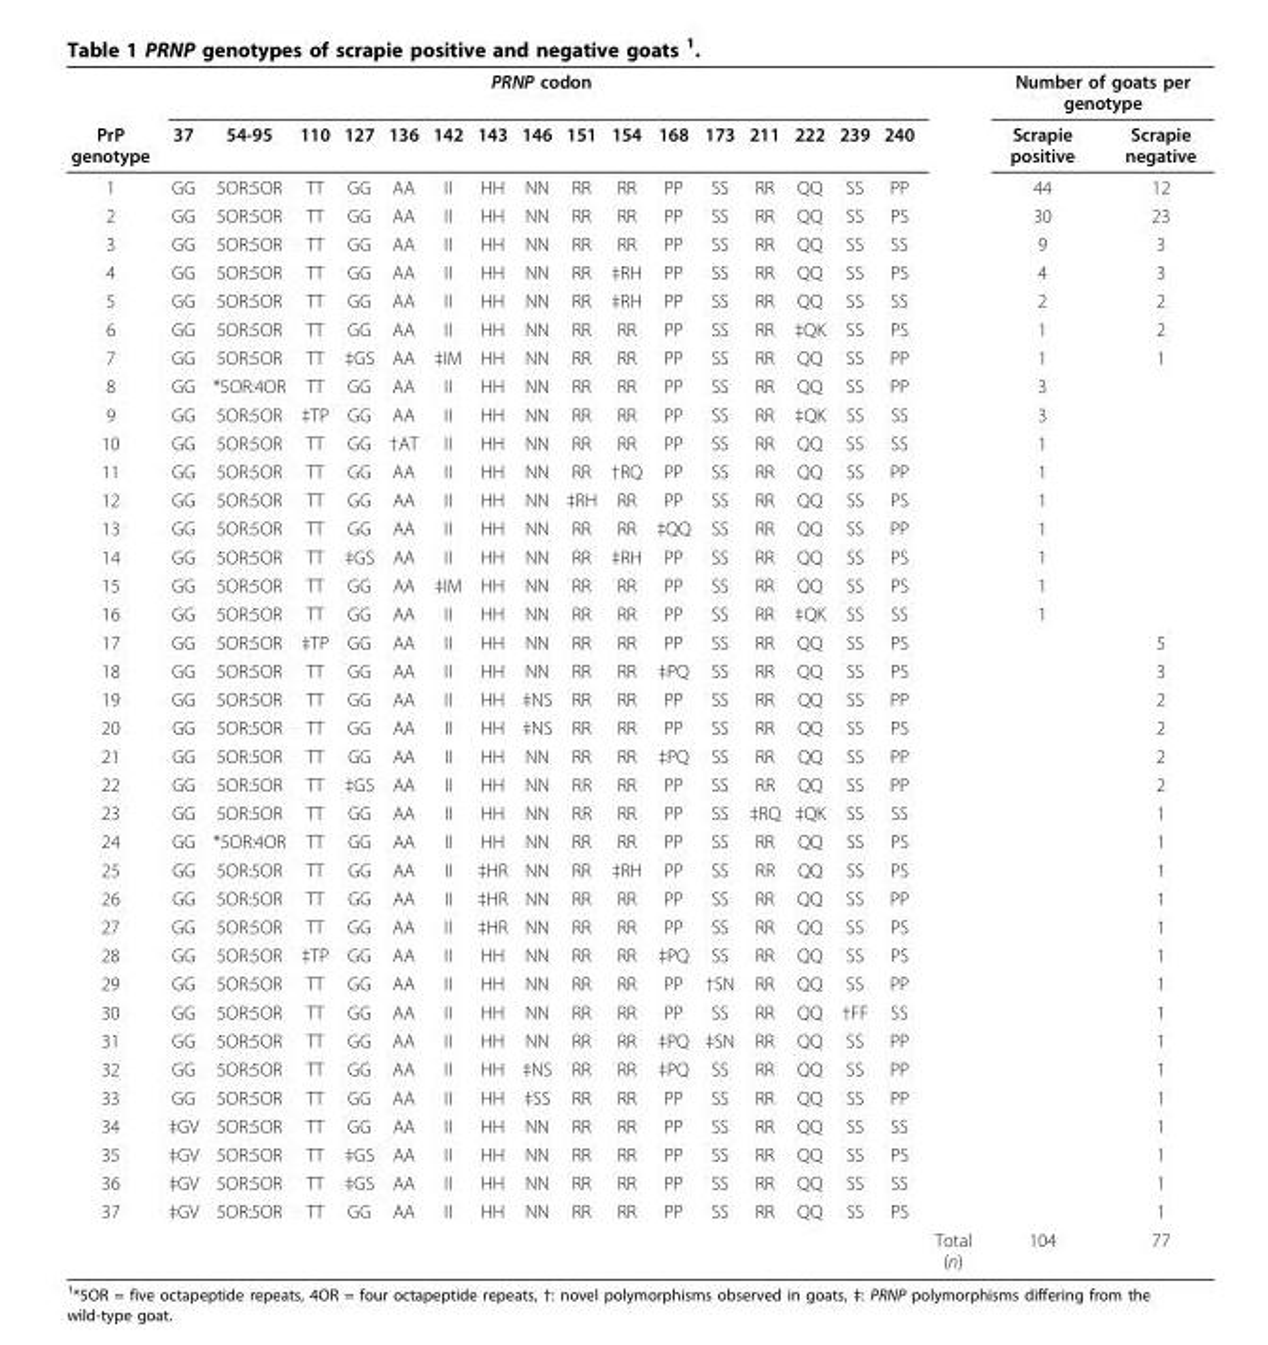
<table><thead><tr><td rowspan="2">PrP genotype</td><td colspan="16">PRNP codon</td><td rowspan="2"></td><td colspan="2">Number of goats per genotype</td></tr><tr><td>37</td><td>54-95</td><td>110</td><td>127</td><td>136</td><td>142</td><td>143</td><td>146</td><td>151</td><td>154</td><td>168</td><td>173</td><td>211</td><td>222</td><td>239</td><td>240</td><td>Scrapie positive</td><td>Scrapie negative</td></tr></thead><tbody><tr><td>1</td><td>GG</td><td>5OR:5OR</td><td>TT</td><td>GG</td><td>AA</td><td>II</td><td>HH</td><td>NN</td><td>RR</td><td>RR</td><td>PP</td><td>SS</td><td>RR</td><td>QQ</td><td>SS</td><td>PP</td><td></td><td>44</td><td>12</td></tr><tr><td>2</td><td>GG</td><td>5OR:5OR</td><td>TT</td><td>GG</td><td>AA</td><td>II</td><td>HH</td><td>NN</td><td>RR</td><td>RR</td><td>PP</td><td>SS</td><td>RR</td><td>QQ</td><td>SS</td><td>PS</td><td></td><td>30</td><td>23</td></tr><tr><td>3</td><td>GG</td><td>5OR:5OR</td><td>TT</td><td>GG</td><td>AA</td><td>II</td><td>HH</td><td>NN</td><td>RR</td><td>RR</td><td>PP</td><td>SS</td><td>RR</td><td>QQ</td><td>SS</td><td>SS</td><td></td><td>9</td><td>3</td></tr><tr><td>4</td><td>GG</td><td>5OR:5OR</td><td>TT</td><td>GG</td><td>AA</td><td>ΙΙ</td><td>HH</td><td>ΝΝ</td><td>RR</td><td>‡RH</td><td>PP</td><td>SS</td><td>RR</td><td>QQ</td><td>SS</td><td>PS</td><td></td><td>4</td><td>3</td></tr><tr><td>5</td><td>GG</td><td>5OR:5OR</td><td>TT</td><td>GG</td><td>AA</td><td>ΙΙ</td><td>HH</td><td>ΝΝ</td><td>RR</td><td>‡RH</td><td>PP</td><td>SS</td><td>RR</td><td>QQ</td><td>SS</td><td>SS</td><td></td><td>2</td><td>2</td></tr><tr><td>6</td><td>GG</td><td>5OR:5OR</td><td>TT</td><td>GG</td><td>AA</td><td>II</td><td>HH</td><td>NN</td><td>RR</td><td>RR</td><td>PP</td><td>SS</td><td>RR</td><td>‡QK</td><td>SS</td><td>PS</td><td></td><td>1</td><td>2</td></tr><tr><td>7</td><td>GG</td><td>5OR:5OR</td><td>TT</td><td>‡GS</td><td>AA</td><td>‡IM</td><td>HH</td><td>NN</td><td>RR</td><td>RR</td><td>PP</td><td>SS</td><td>RR</td><td>QQ</td><td>SS</td><td>PP</td><td></td><td>1</td><td>1</td></tr><tr><td>8</td><td>GG</td><td>*5OR:4OR</td><td>TT</td><td>GG</td><td>AA</td><td>II</td><td>HH</td><td>NN</td><td>RR</td><td>RR</td><td>PP</td><td>SS</td><td>RR</td><td>QQ</td><td>SS</td><td>PP</td><td></td><td>3</td><td></td></tr><tr><td>9</td><td>GG</td><td>5OR:5OR</td><td>‡TP</td><td>GG</td><td>AA</td><td>II</td><td>HH</td><td>NN</td><td>RR</td><td>RR</td><td>PP</td><td>SS</td><td>RR</td><td>‡QK</td><td>SS</td><td>SS</td><td></td><td>3</td><td></td></tr><tr><td>10</td><td>GG</td><td>5OR:5OR</td><td>TT</td><td>GG</td><td>†AT</td><td>II</td><td>HH</td><td>NN</td><td>RR</td><td>RR</td><td>PP</td><td>SS</td><td>RR</td><td>QQ</td><td>SS</td><td>SS</td><td></td><td>1</td><td></td></tr><tr><td>11</td><td>GG</td><td>5OR:5OR</td><td>TT</td><td>GG</td><td>AA</td><td>II</td><td>HH</td><td>NN</td><td>RR</td><td>†RQ</td><td>PP</td><td>SS</td><td>RR</td><td>QQ</td><td>SS</td><td>PP</td><td></td><td>1</td><td></td></tr><tr><td>12</td><td>GG</td><td>5OR:5OR</td><td>TT</td><td>GG</td><td>AA</td><td>ΙΙ</td><td>HH</td><td>ΝΝ</td><td>‡RH</td><td>RR</td><td>PP</td><td>SS</td><td>RR</td><td>QQ</td><td>SS</td><td>PS</td><td></td><td>1</td><td></td></tr><tr><td>13</td><td>GG</td><td>5OR:5OR</td><td>TT</td><td>GG</td><td>AA</td><td>II</td><td>HH</td><td>NN</td><td>RR</td><td>RR</td><td>‡QQ</td><td>SS</td><td>RR</td><td>QQ</td><td>SS</td><td>PP</td><td></td><td>1</td><td></td></tr><tr><td>14</td><td>GG</td><td>5OR:5OR</td><td>TT</td><td>‡GS</td><td>AA</td><td>II</td><td>HH</td><td>NN</td><td>RR</td><td>‡RH</td><td>PP</td><td>SS</td><td>RR</td><td>QQ</td><td>SS</td><td>PS</td><td></td><td>1</td><td></td></tr><tr><td>15</td><td>GG</td><td>5OR:5OR</td><td>TT</td><td>GG</td><td>AA</td><td>‡IM</td><td>HH</td><td>NN</td><td>RR</td><td>RR</td><td>PP</td><td>SS</td><td>RR</td><td>QQ</td><td>SS</td><td>PS</td><td></td><td>1</td><td></td></tr><tr><td>16</td><td>GG</td><td>5OR:5OR</td><td>TT</td><td>GG</td><td>AA</td><td>II</td><td>HH</td><td>NN</td><td>RR</td><td>RR</td><td>PP</td><td>SS</td><td>RR</td><td>‡QK</td><td>SS</td><td>SS</td><td></td><td>1</td><td></td></tr><tr><td>17</td><td>GG</td><td>5OR:5OR</td><td>‡TP</td><td>GG</td><td>AA</td><td>ΙΙ</td><td>HH</td><td>ΝΝ</td><td>RR</td><td>RR</td><td>PP</td><td>SS</td><td>RR</td><td>QQ</td><td>SS</td><td>PS</td><td></td><td></td><td>5</td></tr><tr><td>18</td><td>GG</td><td>5OR:5OR</td><td>TT</td><td>GG</td><td>AA</td><td>II</td><td>HH</td><td>NN</td><td>RR</td><td>RR</td><td>‡PQ</td><td>SS</td><td>RR</td><td>QQ</td><td>SS</td><td>PS</td><td></td><td></td><td>3</td></tr><tr><td>19</td><td>GG</td><td>5OR:5OR</td><td>TT</td><td>GG</td><td>AA</td><td>II</td><td>HH</td><td>‡NS</td><td>RR</td><td>RR</td><td>PP</td><td>SS</td><td>RR</td><td>QQ</td><td>SS</td><td>PP</td><td></td><td></td><td>2</td></tr><tr><td>20</td><td>GG</td><td>5OR:5OR</td><td>TT</td><td>GG</td><td>AA</td><td>II</td><td>HH</td><td>‡NS</td><td>RR</td><td>RR</td><td>PP</td><td>SS</td><td>RR</td><td>QQ</td><td>SS</td><td>PS</td><td></td><td></td><td>2</td></tr><tr><td>21</td><td>GG</td><td>5OR:5OR</td><td>TT</td><td>GG</td><td>AA</td><td>II</td><td>HH</td><td>NN</td><td>RR</td><td>RR</td><td>‡PQ</td><td>SS</td><td>RR</td><td>QQ</td><td>SS</td><td>PP</td><td></td><td></td><td>2</td></tr><tr><td>22</td><td>GG</td><td>5OR:5OR</td><td>TT</td><td>‡GS</td><td>AA</td><td>II</td><td>HH</td><td>NN</td><td>RR</td><td>RR</td><td>PP</td><td>SS</td><td>RR</td><td>QQ</td><td>SS</td><td>PP</td><td></td><td></td><td>2</td></tr><tr><td>23</td><td>GG</td><td>5OR:5OR</td><td>TT</td><td>GG</td><td>AA</td><td>ΙΙ</td><td>HH</td><td>ΝΝ</td><td>RR</td><td>RR</td><td>PP</td><td>SS</td><td>‡RQ</td><td>‡QK</td><td>SS</td><td>SS</td><td></td><td></td><td>1</td></tr><tr><td>24</td><td>GG</td><td>*5OR:4OR</td><td>TT</td><td>GG</td><td>AA</td><td>II</td><td>HH</td><td>NN</td><td>RR</td><td>RR</td><td>PP</td><td>SS</td><td>RR</td><td>QQ</td><td>SS</td><td>PS</td><td></td><td></td><td>1</td></tr><tr><td>25</td><td>GG</td><td>5OR:5OR</td><td>TT</td><td>GG</td><td>AA</td><td>II</td><td>‡HR</td><td>NN</td><td>RR</td><td>‡RH</td><td>PP</td><td>SS</td><td>RR</td><td>QQ</td><td>SS</td><td>PS</td><td></td><td></td><td>1</td></tr><tr><td>26</td><td>GG</td><td>5OR:5OR</td><td>TT</td><td>GG</td><td>AA</td><td>II</td><td>‡HR</td><td>NN</td><td>RR</td><td>RR</td><td>PP</td><td>SS</td><td>RR</td><td>QQ</td><td>SS</td><td>PP</td><td></td><td></td><td>1</td></tr><tr><td>27</td><td>GG</td><td>5OR:5OR</td><td>TT</td><td>GG</td><td>AA</td><td>II</td><td>‡HR</td><td>NN</td><td>RR</td><td>RR</td><td>PP</td><td>SS</td><td>RR</td><td>QQ</td><td>SS</td><td>PS</td><td></td><td></td><td>1</td></tr><tr><td>28</td><td>GG</td><td>5OR:5OR</td><td>‡TP</td><td>GG</td><td>AA</td><td>ΙΙ</td><td>HH</td><td>ΝΝ</td><td>RR</td><td>RR</td><td>‡PQ</td><td>SS</td><td>RR</td><td>QQ</td><td>SS</td><td>PS</td><td></td><td></td><td>1</td></tr><tr><td>29</td><td>GG</td><td>5OR:5OR</td><td>TT</td><td>GG</td><td>AA</td><td>ΙΙ</td><td>HH</td><td>ΝΝ</td><td>RR</td><td>RR</td><td>PP</td><td>†SN</td><td>RR</td><td>QQ</td><td>SS</td><td>PP</td><td></td><td></td><td>1</td></tr><tr><td>30</td><td>GG</td><td>5OR:5OR</td><td>TT</td><td>GG</td><td>AA</td><td>II</td><td>HH</td><td>NN</td><td>RR</td><td>RR</td><td>PP</td><td>SS</td><td>RR</td><td>QQ</td><td>†FF</td><td>SS</td><td></td><td></td><td>1</td></tr><tr><td>31</td><td>GG</td><td>5OR:5OR</td><td>TT</td><td>GG</td><td>AA</td><td>II</td><td>HH</td><td>NN</td><td>RR</td><td>RR</td><td>‡PQ</td><td>‡SN</td><td>RR</td><td>QQ</td><td>SS</td><td>PP</td><td></td><td></td><td>1</td></tr><tr><td>32</td><td>GG</td><td>5OR:5OR</td><td>TT</td><td>GG</td><td>AA</td><td>II</td><td>HH</td><td>‡NS</td><td>RR</td><td>RR</td><td>‡PQ</td><td>SS</td><td>RR</td><td>QQ</td><td>SS</td><td>PP</td><td></td><td></td><td>1</td></tr><tr><td>33</td><td>GG</td><td>5OR:5OR</td><td>TT</td><td>GG</td><td>AA</td><td>II</td><td>HH</td><td>‡SS</td><td>RR</td><td>RR</td><td>PP</td><td>SS</td><td>RR</td><td>QQ</td><td>SS</td><td>PP</td><td></td><td></td><td>1</td></tr><tr><td>34</td><td>‡GV</td><td>5OR:5OR</td><td>TT</td><td>GG</td><td>AA</td><td>II</td><td>HH</td><td>NN</td><td>RR</td><td>RR</td><td>PP</td><td>SS</td><td>RR</td><td>QQ</td><td>SS</td><td>SS</td><td></td><td></td><td>1</td></tr><tr><td>35</td><td>‡GV</td><td>5OR:5OR</td><td>TT</td><td>‡GS</td><td>AA</td><td>II</td><td>HH</td><td>NN</td><td>RR</td><td>RR</td><td>PP</td><td>SS</td><td>RR</td><td>QQ</td><td>SS</td><td>PS</td><td></td><td></td><td>1</td></tr><tr><td>36</td><td>‡GV</td><td>5OR:5OR</td><td>TT</td><td>‡GS</td><td>AA</td><td>II</td><td>HH</td><td>NN</td><td>RR</td><td>RR</td><td>PP</td><td>SS</td><td>RR</td><td>QQ</td><td>SS</td><td>SS</td><td></td><td></td><td>1</td></tr><tr><td rowspan="2">37</td><td>‡GV</td><td>5OR:5OR</td><td>TT</td><td>GG</td><td>AA</td><td>II</td><td>HH</td><td>NN</td><td>RR</td><td>RR</td><td>PP</td><td>SS</td><td>RR</td><td>QQ</td><td>SS</td><td>PS</td><td></td><td></td><td>1</td></tr><tr><td></td><td></td><td></td><td></td><td></td><td></td><td></td><td></td><td></td><td></td><td></td><td></td><td></td><td></td><td></td><td></td><td>Total (n)</td><td>104</td><td>77</td></tr></tbody></table>